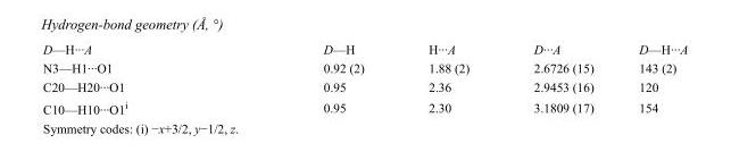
<table><tbody><tr><td>D—H···A</td><td>D—H</td><td>H···A</td><td>D···A</td><td>D—H···A</td></tr><tr><td>N3—H1···O1</td><td>0.92 (2)</td><td>1.88 (2)</td><td>2.6726 (15)</td><td>143 (2)</td></tr><tr><td>C20—H20···O1</td><td>0.95</td><td>2.36</td><td>2.9453 (16)</td><td>120</td></tr><tr><td>C10—H10···O1<sup>i</sup></td><td>0.95</td><td>2.30</td><td>3.1809 (17)</td><td>154</td></tr></tbody></table>